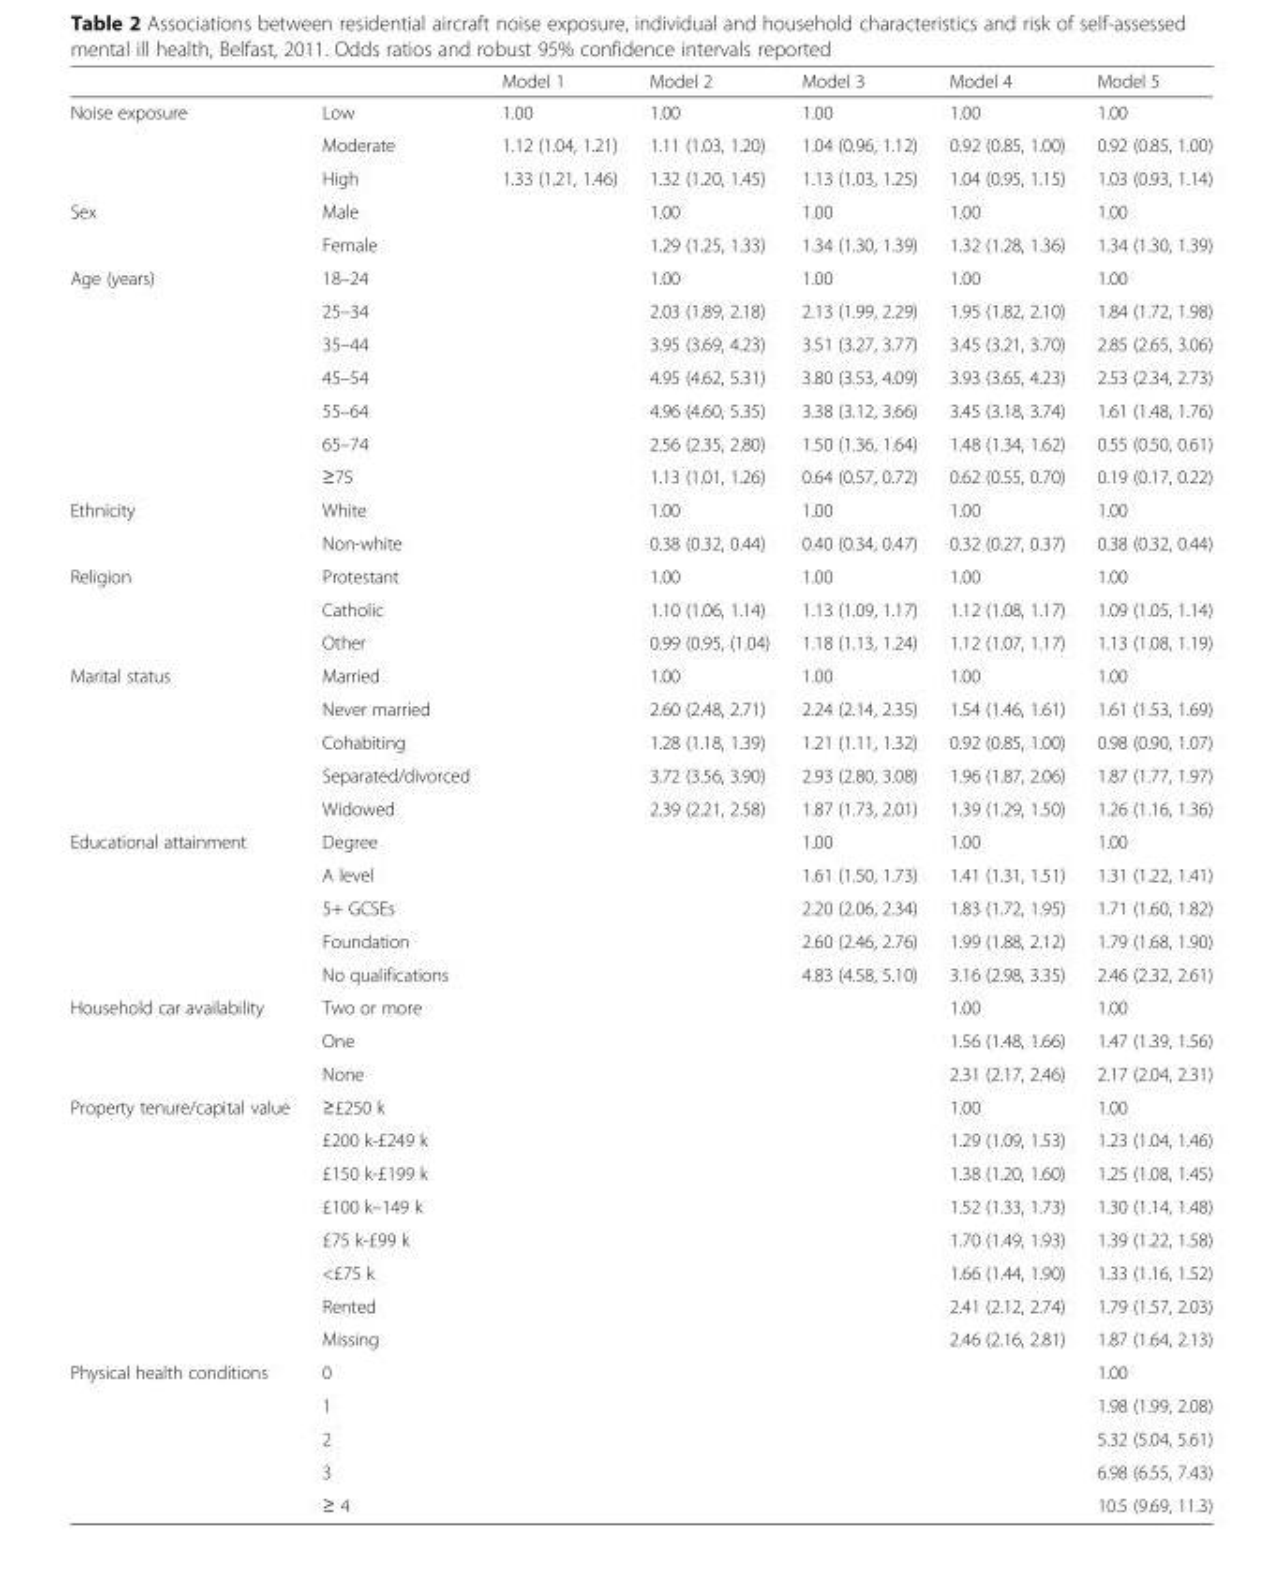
<table><thead><tr><td></td><td></td><td>Model 1</td><td>Model 2</td><td>Model 3</td><td>Model 4</td><td>Model 5</td></tr></thead><tbody><tr><td rowspan="3">Noise exposure</td><td>Low</td><td>1.00</td><td>1.00</td><td>1.00</td><td>1.00</td><td>1.00</td></tr><tr><td>Moderate</td><td>1.12 (1.04, 1.21)</td><td>1.11 (1.03, 1.20)</td><td>1.04 (0.96, 1.12)</td><td>0.92 (0.85, 1.00)</td><td>0.92 (0.85, 1.00)</td></tr><tr><td>High</td><td>1.33 (1.21, 1.46)</td><td>1.32 (1.20, 1.45)</td><td>1.13 (1.03, 1.25)</td><td>1.04 (0.95, 1.15)</td><td>1.03 (0.93, 1.14)</td></tr><tr><td rowspan="2">Sex</td><td>Male</td><td></td><td>1.00</td><td>1.00</td><td>1.00</td><td>1.00</td></tr><tr><td>Female</td><td></td><td>1.29 (1.25, 1.33)</td><td>1.34 (1.30, 1.39)</td><td>1.32 (1.28, 1.36)</td><td>1.34 (1.30, 1.39)</td></tr><tr><td rowspan="7">Age (years)</td><td>18–24</td><td></td><td>1.00</td><td>1.00</td><td>1.00</td><td>1.00</td></tr><tr><td>25–34</td><td></td><td>2.03 (1.89, 2.18)</td><td>2.13 (1.99, 2.29)</td><td>1.95 (1.82, 2.10)</td><td>1.84 (1.72, 1.98)</td></tr><tr><td>35–44</td><td></td><td>3.95 (3.69, 4.23)</td><td>3.51 (3.27, 3.77)</td><td>3.45 (3.21, 3.70)</td><td>2.85 (2.65, 3.06)</td></tr><tr><td>45–54</td><td></td><td>4.95 (4.62, 5.31)</td><td>3.80 (3.53, 4.09)</td><td>3.93 (3.65, 4.23)</td><td>2.53 (2.34, 2.73)</td></tr><tr><td>55–64</td><td></td><td>4.96 (4.60, 5.35)</td><td>3.38 (3.12, 3.66)</td><td>3.45 (3.18, 3.74)</td><td>1.61 (1.48, 1.76)</td></tr><tr><td>65–74</td><td></td><td>2.56 (2.35, 2.80)</td><td>1.50 (1.36, 1.64)</td><td>1.48 (1.34, 1.62)</td><td>0.55 (0.50, 0.61)</td></tr><tr><td>≥75</td><td></td><td>1.13 (1.01, 1.26)</td><td>0.64 (0.57, 0.72)</td><td>0.62 (0.55, 0.70)</td><td>0.19 (0.17, 0.22)</td></tr><tr><td rowspan="2">Ethnicity</td><td>White</td><td></td><td>1.00</td><td>1.00</td><td>1.00</td><td>1.00</td></tr><tr><td>Non-white</td><td></td><td>0.38 (0.32, 0.44)</td><td>0.40 (0.34, 0.47)</td><td>0.32 (0.27, 0.37)</td><td>0.38 (0.32, 0.44)</td></tr><tr><td rowspan="3">Religion</td><td>Protestant</td><td></td><td>1.00</td><td>1.00</td><td>1.00</td><td>1.00</td></tr><tr><td>Catholic</td><td></td><td>1.10 (1.06, 1.14)</td><td>1.13 (1.09, 1.17)</td><td>1.12 (1.08, 1.17)</td><td>1.09 (1.05, 1.14)</td></tr><tr><td>Other</td><td></td><td>0.99 (0.95, (1.04)</td><td>1.18 (1.13, 1.24)</td><td>1.12 (1.07, 1.17)</td><td>1.13 (1.08, 1.19)</td></tr><tr><td rowspan="5">Marital status</td><td>Married</td><td></td><td>1.00</td><td>1.00</td><td>1.00</td><td>1.00</td></tr><tr><td>Never married</td><td></td><td>2.60 (2.48, 2.71)</td><td>2.24 (2.14, 2.35)</td><td>1.54 (1.46, 1.61)</td><td>1.61 (1.53, 1.69)</td></tr><tr><td>Cohabiting</td><td></td><td>1.28 (1.18, 1.39)</td><td>1.21 (1.11, 1.32)</td><td>0.92 (0.85, 1.00)</td><td>0.98 (0.90, 1.07)</td></tr><tr><td>Separated/divorced</td><td></td><td>3.72 (3.56, 3.90)</td><td>2.93 (2.80, 3.08)</td><td>1.96 (1.87, 2.06)</td><td>1.87 (1.77, 1.97)</td></tr><tr><td>Widowed</td><td></td><td>2.39 (2.21, 2.58)</td><td>1.87 (1.73, 2.01)</td><td>1.39 (1.29, 1.50)</td><td>1.26 (1.16, 1.36)</td></tr><tr><td rowspan="5">Educational attainment</td><td>Degree</td><td></td><td></td><td>1.00</td><td>1.00</td><td>1.00</td></tr><tr><td>A level</td><td></td><td></td><td>1.61 (1.50, 1.73)</td><td>1.41 (1.31, 1.51)</td><td>1.31 (1.22, 1.41)</td></tr><tr><td>5+ GCSEs</td><td></td><td></td><td>2.20 (2.06, 2.34)</td><td>1.83 (1.72, 1.95)</td><td>1.71 (1.60, 1.82)</td></tr><tr><td>Foundation</td><td></td><td></td><td>2.60 (2.46, 2.76)</td><td>1.99 (1.88, 2.12)</td><td>1.79 (1.68, 1.90)</td></tr><tr><td>No qualifications</td><td></td><td></td><td>4.83 (4.58, 5.10)</td><td>3.16 (2.98, 3.35)</td><td>2.46 (2.32, 2.61)</td></tr><tr><td rowspan="3">Household car availability</td><td>Two or more</td><td></td><td></td><td></td><td>1.00</td><td>1.00</td></tr><tr><td>One</td><td></td><td></td><td></td><td>1.56 (1.48, 1.66)</td><td>1.47 (1.39, 1.56)</td></tr><tr><td>None</td><td></td><td></td><td></td><td>2.31 (2.17, 2.46)</td><td>2.17 (2.04, 2.31)</td></tr><tr><td rowspan="8">Property tenure/capital value</td><td>≥£250 k</td><td></td><td></td><td></td><td>1.00</td><td>1.00</td></tr><tr><td>£200 k-£249 k</td><td></td><td></td><td></td><td>1.29 (1.09, 1.53)</td><td>1.23 (1.04, 1.46)</td></tr><tr><td>£150 k-£199 k</td><td></td><td></td><td></td><td>1.38 (1.20, 1.60)</td><td>1.25 (1.08, 1.45)</td></tr><tr><td>£100 k–149 k</td><td></td><td></td><td></td><td>1.52 (1.33, 1.73)</td><td>1.30 (1.14, 1.48)</td></tr><tr><td>£75 k-£99 k</td><td></td><td></td><td></td><td>1.70 (1.49, 1.93)</td><td>1.39 (1.22, 1.58)</td></tr><tr><td>&lt;£75 k</td><td></td><td></td><td></td><td>1.66 (1.44, 1.90)</td><td>1.33 (1.16, 1.52)</td></tr><tr><td>Rented</td><td></td><td></td><td></td><td>2.41 (2.12, 2.74)</td><td>1.79 (1.57, 2.03)</td></tr><tr><td>Missing</td><td></td><td></td><td></td><td>2.46 (2.16, 2.81)</td><td>1.87 (1.64, 2.13)</td></tr><tr><td rowspan="5">Physical health conditions</td><td>0</td><td></td><td></td><td></td><td></td><td>1.00</td></tr><tr><td>1</td><td></td><td></td><td></td><td></td><td>1.98 (1.99, 2.08)</td></tr><tr><td>2</td><td></td><td></td><td></td><td></td><td>5.32 (5.04, 5.61)</td></tr><tr><td>3</td><td></td><td></td><td></td><td></td><td>6.98 (6.55, 7.43)</td></tr><tr><td>≥ 4</td><td></td><td></td><td></td><td></td><td>10.5 (9.69, 11.3)</td></tr></tbody></table>